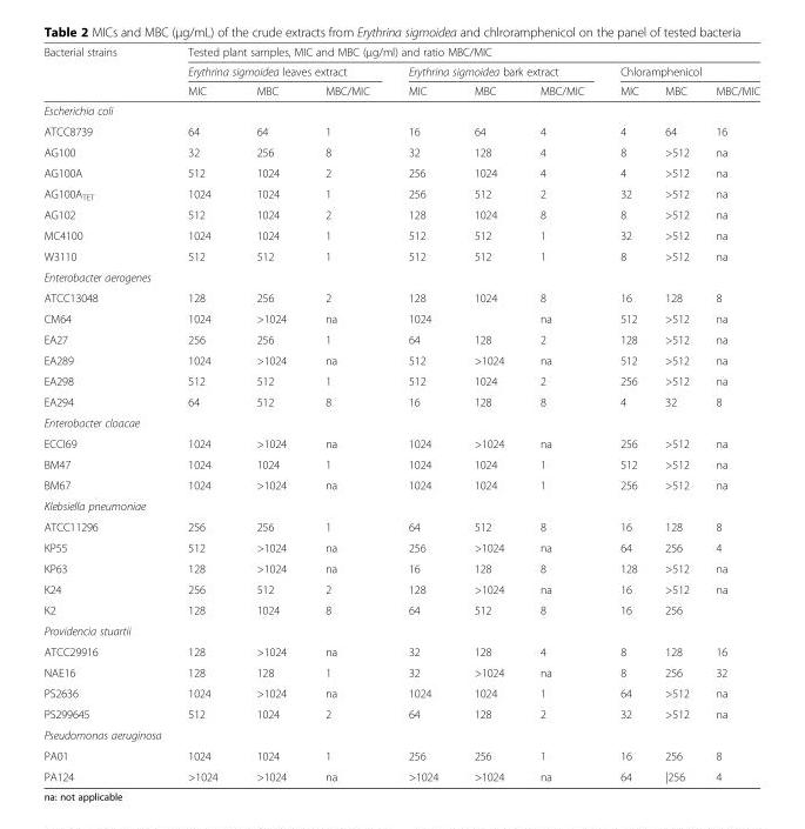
<table><thead><tr><td rowspan="3">Bacterial strains</td><td colspan="9">Tested plant samples, MIC and MBC (μg/ml) and ratio MBC/MIC</td></tr><tr><td colspan="3">Erythrina sigmoidea leaves extract</td><td colspan="3">Erythrina sigmoidea bark extract</td><td colspan="3">Chloramphenicol</td></tr><tr><td>MIC</td><td>MBC</td><td>MBC/MIC</td><td>MIC</td><td>MBC</td><td>MBC/MIC</td><td>MIC</td><td>MBC</td><td>MBC/MIC</td></tr></thead><tbody><tr><td colspan="10">Escherichia coli</td></tr><tr><td>ATCC8739</td><td>64</td><td>64</td><td>1</td><td>16</td><td>64</td><td>4</td><td>4</td><td>64</td><td>16</td></tr><tr><td>AG100</td><td>32</td><td>256</td><td>8</td><td>32</td><td>128</td><td>4</td><td>8</td><td>&gt;512</td><td>na</td></tr><tr><td>AG100A</td><td>512</td><td>1024</td><td>2</td><td>256</td><td>1024</td><td>4</td><td>4</td><td>&gt;512</td><td>na</td></tr><tr><td>AG100A<sub>TET</sub></td><td>1024</td><td>1024</td><td>1</td><td>256</td><td>512</td><td>2</td><td>32</td><td>&gt;512</td><td>na</td></tr><tr><td>AG102</td><td>512</td><td>1024</td><td>2</td><td>128</td><td>1024</td><td>8</td><td>8</td><td>&gt;512</td><td>na</td></tr><tr><td>MC4100</td><td>1024</td><td>1024</td><td>1</td><td>512</td><td>512</td><td>1</td><td>32</td><td>&gt;512</td><td>na</td></tr><tr><td>W3110</td><td>512</td><td>512</td><td>1</td><td>512</td><td>512</td><td>1</td><td>8</td><td>&gt;512</td><td>na</td></tr><tr><td colspan="10">Enterobacter aerogenes</td></tr><tr><td>ATCC13048</td><td>128</td><td>256</td><td>2</td><td>128</td><td>1024</td><td>8</td><td>16</td><td>128</td><td>8</td></tr><tr><td>CM64</td><td>1024</td><td>&gt;1024</td><td>na</td><td>1024</td><td></td><td>na</td><td>512</td><td>&gt;512</td><td>na</td></tr><tr><td>EA27</td><td>256</td><td>256</td><td>1</td><td>64</td><td>128</td><td>2</td><td>128</td><td>&gt;512</td><td>na</td></tr><tr><td>EA289</td><td>1024</td><td>&gt;1024</td><td>na</td><td>512</td><td>&gt;1024</td><td>na</td><td>512</td><td>&gt;512</td><td>na</td></tr><tr><td>EA298</td><td>512</td><td>512</td><td>1</td><td>512</td><td>1024</td><td>2</td><td>256</td><td>&gt;512</td><td>na</td></tr><tr><td>EA294</td><td>64</td><td>512</td><td>8</td><td>16</td><td>128</td><td>8</td><td>4</td><td>32</td><td>8</td></tr><tr><td colspan="10">Enterobacter cloacae</td></tr><tr><td>ECCI69</td><td>1024</td><td>&gt;1024</td><td>na</td><td>1024</td><td>&gt;1024</td><td>na</td><td>256</td><td>&gt;512</td><td>na</td></tr><tr><td>BM47</td><td>1024</td><td>1024</td><td>1</td><td>1024</td><td>1024</td><td>1</td><td>512</td><td>&gt;512</td><td>na</td></tr><tr><td>BM67</td><td>1024</td><td>&gt;1024</td><td>na</td><td>1024</td><td>1024</td><td>1</td><td>256</td><td>&gt;512</td><td>na</td></tr><tr><td colspan="10">Klebsiella pneumoniae</td></tr><tr><td>ATCC11296</td><td>256</td><td>256</td><td>1</td><td>64</td><td>512</td><td>8</td><td>16</td><td>128</td><td>8</td></tr><tr><td>KP55</td><td>512</td><td>&gt;1024</td><td>na</td><td>256</td><td>&gt;1024</td><td>na</td><td>64</td><td>256</td><td>4</td></tr><tr><td>KP63</td><td>128</td><td>&gt;1024</td><td>na</td><td>16</td><td>128</td><td>8</td><td>128</td><td>&gt;512</td><td>na</td></tr><tr><td>K24</td><td>256</td><td>512</td><td>2</td><td>128</td><td>&gt;1024</td><td>na</td><td>16</td><td>&gt;512</td><td>na</td></tr><tr><td>K2</td><td>128</td><td>1024</td><td>8</td><td>64</td><td>512</td><td>8</td><td>16</td><td>256</td><td></td></tr><tr><td colspan="10">Providencia stuartii</td></tr><tr><td>ATCC29916</td><td>128</td><td>&gt;1024</td><td>na</td><td>32</td><td>128</td><td>4</td><td>8</td><td>128</td><td>16</td></tr><tr><td>NAE16</td><td>128</td><td>128</td><td>1</td><td>32</td><td>&gt;1024</td><td>na</td><td>8</td><td>256</td><td>32</td></tr><tr><td>PS2636</td><td>1024</td><td>&gt;1024</td><td>na</td><td>1024</td><td>1024</td><td>1</td><td>64</td><td>&gt;512</td><td>na</td></tr><tr><td>PS299645</td><td>512</td><td>1024</td><td>2</td><td>64</td><td>128</td><td>2</td><td>32</td><td>&gt;512</td><td>na</td></tr><tr><td colspan="10">Pseudomonas aeruginosa</td></tr><tr><td>PA01</td><td>1024</td><td>1024</td><td>1</td><td>256</td><td>256</td><td>1</td><td>16</td><td>256</td><td>8</td></tr><tr><td>PA124</td><td>&gt;1024</td><td>&gt;1024</td><td>na</td><td>&gt;1024</td><td>&gt;1024</td><td>na</td><td>64</td><td>|256</td><td>4</td></tr></tbody></table>